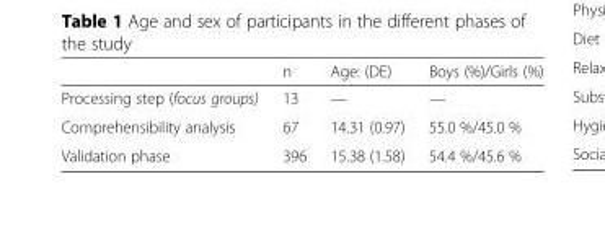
<table><thead><tr><td></td><td>n</td><td>Age: (DE)</td><td>Boys (%)/Girls (%)</td></tr></thead><tbody><tr><td>Processing step (focus groups)</td><td>13</td><td>—</td><td>—</td></tr><tr><td>Comprehensibility analysis</td><td>67</td><td>14.31 (0.97)</td><td>55.0 %/45.0 %</td></tr><tr><td>Validation phase</td><td>396</td><td>15.38 (1.58)</td><td>54.4 %/45.6 %</td></tr></tbody></table>